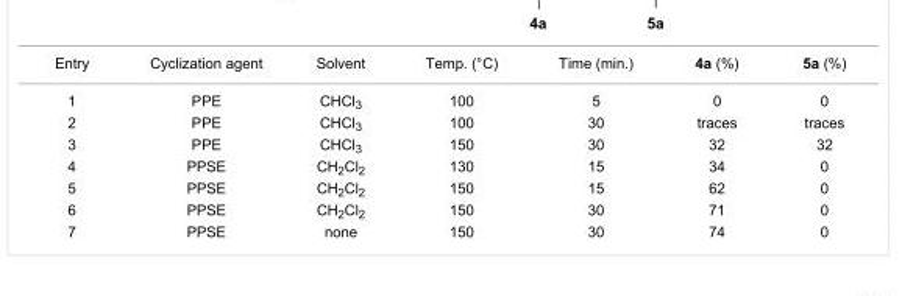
<table><tbody><tr><td>Entry</td><td>Cyclization agent</td><td>Solvent</td><td>Temp. (°C)</td><td>Time (min.)</td><td>4a (%)</td><td>5a (%)</td></tr><tr><td>1</td><td>PPE</td><td>CHCl<sub>3</sub></td><td>100</td><td>5</td><td>0</td><td>0</td></tr><tr><td>2</td><td>PPE</td><td>CHCl<sub>3</sub></td><td>100</td><td>30</td><td>traces</td><td>traces</td></tr><tr><td>3</td><td>PPE</td><td>CHCl<sub>3</sub></td><td>150</td><td>30</td><td>32</td><td>32</td></tr><tr><td>4</td><td>PPSE</td><td>CH<sub>2</sub>Cl<sub>2</sub></td><td>130</td><td>15</td><td>34</td><td>0</td></tr><tr><td>5</td><td>PPSE</td><td>CH<sub>2</sub>Cl<sub>2</sub></td><td>150</td><td>15</td><td>62</td><td>0</td></tr><tr><td>6</td><td>PPSE</td><td>CH<sub>2</sub>Cl<sub>2</sub></td><td>150</td><td>30</td><td>71</td><td>0</td></tr><tr><td>7</td><td>PPSE</td><td>none</td><td>150</td><td>30</td><td>74</td><td>0</td></tr></tbody></table>